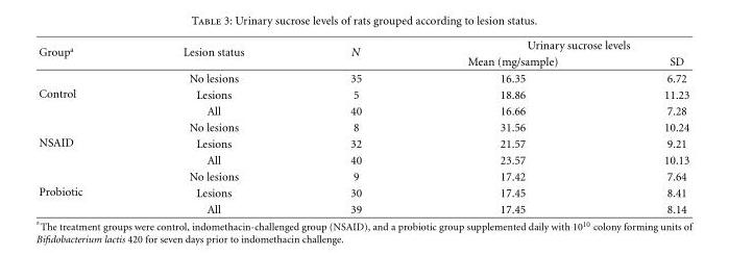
<table><thead><tr><td rowspan="2">Group<sup>a</sup></td><td rowspan="2">Lesion status</td><td rowspan="2">N</td><td colspan="2">Urinary sucrose levels</td></tr><tr><td>Mean (mg/sample)</td><td>SD</td></tr></thead><tbody><tr><td rowspan="3">Control</td><td>No lesions</td><td>35</td><td>16.35</td><td>6.72</td></tr><tr><td>Lesions</td><td>5</td><td>18.86</td><td>11.23</td></tr><tr><td>All</td><td>40</td><td>16.66</td><td>7.28</td></tr><tr><td rowspan="3">NSAID</td><td>No lesions</td><td>8</td><td>31.56</td><td>10.24</td></tr><tr><td>Lesions</td><td>32</td><td>21.57</td><td>9.21</td></tr><tr><td>All</td><td>40</td><td>23.57</td><td>10.13</td></tr><tr><td rowspan="3">Probiotic</td><td>No lesions</td><td>9</td><td>17.42</td><td>7.64</td></tr><tr><td>Lesions</td><td>30</td><td>17.45</td><td>8.41</td></tr><tr><td>All</td><td>39</td><td>17.45</td><td>8.14</td></tr></tbody></table>